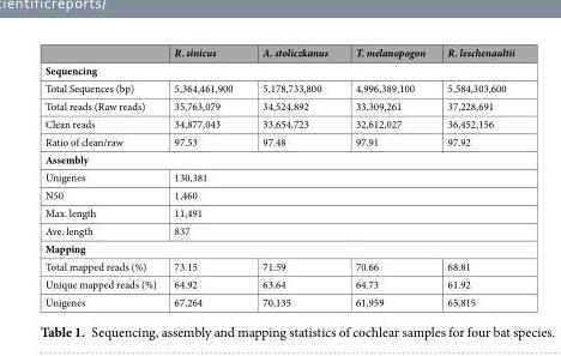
<table><thead><tr><td></td><td>R. sinicus</td><td>A. stoliczkanus</td><td>T. melanopogon</td><td>R. leschenaultii</td></tr></thead><tbody><tr><td colspan="5">Sequencing</td></tr><tr><td>Total Sequences (bp)</td><td>5,364,461,900</td><td>5,178,733,800</td><td>4,996,389,100</td><td>5,584,303,600</td></tr><tr><td>Total reads (Raw reads)</td><td>35,763,079</td><td>34,524,892</td><td>33,309,261</td><td>37,228,691</td></tr><tr><td>Clean reads</td><td>34,877,043</td><td>33,654,723</td><td>32,612,027</td><td>36,452,156</td></tr><tr><td>Ratio of clean/raw</td><td>97.53</td><td>97.48</td><td>97.91</td><td>97.92</td></tr><tr><td colspan="5">Assembly</td></tr><tr><td>Unigenes</td><td colspan="4">130,381</td></tr><tr><td>N50</td><td colspan="4">1,460</td></tr><tr><td>Max. length</td><td colspan="4">11,491</td></tr><tr><td>Ave. length</td><td colspan="4">837</td></tr><tr><td colspan="5">Mapping</td></tr><tr><td>Total mapped reads (%)</td><td>73.15</td><td>71.59</td><td>70.66</td><td>68.81</td></tr><tr><td>Unique mapped reads (%)</td><td>64.92</td><td>63.64</td><td>64.73</td><td>61.92</td></tr><tr><td>Unigenes</td><td>67,264</td><td>70,135</td><td>61,959</td><td>65,815</td></tr></tbody></table>